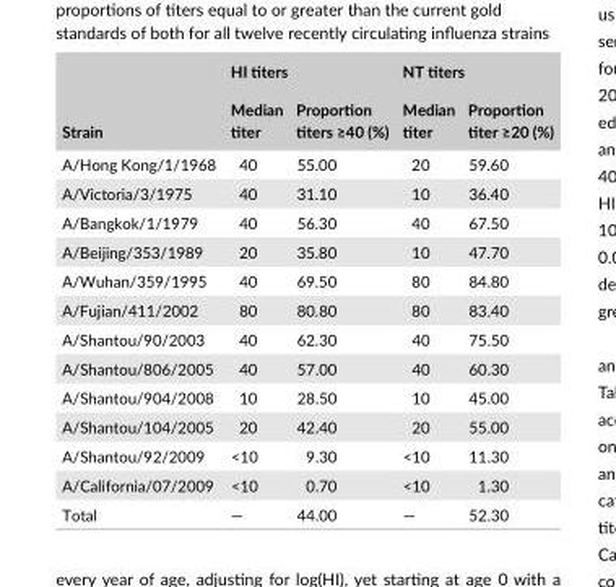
<table><thead><tr><td rowspan="2">Strain</td><td colspan="2">HI titers</td><td colspan="2">NT titers</td></tr><tr><td>Median titer</td><td>Proportion titers ≥40 (%)</td><td>Median titer</td><td>Proportion titer ≥20 (%)</td></tr></thead><tbody><tr><td>A/Hong Kong/1/1968</td><td>40</td><td>55.00</td><td>20</td><td>59.60</td></tr><tr><td>A/Victoria/3/1975</td><td>40</td><td>31.10</td><td>10</td><td>36.40</td></tr><tr><td>A/Bangkok/1/1979</td><td>40</td><td>56.30</td><td>40</td><td>67.50</td></tr><tr><td>A/Beijing/353/1989</td><td>20</td><td>35.80</td><td>10</td><td>47.70</td></tr><tr><td>A/Wuhan/359/1995</td><td>40</td><td>69.50</td><td>80</td><td>84.80</td></tr><tr><td>A/Fujian/411/2002</td><td>80</td><td>80.80</td><td>80</td><td>83.40</td></tr><tr><td>A/Shantou/90/2003</td><td>40</td><td>62.30</td><td>40</td><td>75.50</td></tr><tr><td>A/Shantou/806/2005</td><td>40</td><td>57.00</td><td>40</td><td>60.30</td></tr><tr><td>A/Shantou/904/2008</td><td>10</td><td>28.50</td><td>10</td><td>45.00</td></tr><tr><td>A/Shantou/104/2005</td><td>20</td><td>42.40</td><td>20</td><td>55.00</td></tr><tr><td>A/Shantou/92/2009</td><td>&lt;10</td><td>9.30</td><td>&lt;10</td><td>11.30</td></tr><tr><td>A/California/07/2009</td><td>&lt;10</td><td>0.70</td><td>&lt;10</td><td>1.30</td></tr><tr><td>Total</td><td>—</td><td>44.00</td><td>—</td><td>52.30</td></tr></tbody></table>